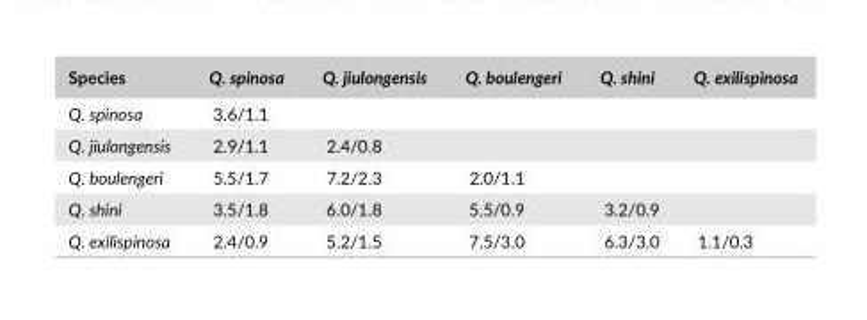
<table><thead><tr><td>Species</td><td>Q. spinosa</td><td>Q. jiulongensis</td><td>Q. boulengeri</td><td>Q. shini</td><td>Q. exilispinosa</td></tr></thead><tbody><tr><td>Q. spinosa</td><td>3.6/1.1</td><td></td><td></td><td></td><td></td></tr><tr><td>Q. jiulongensis</td><td>2.9/1.1</td><td>2.4/0.8</td><td></td><td></td><td></td></tr><tr><td>Q. boulengeri</td><td>5.5/1.7</td><td>7.2/2.3</td><td>2.0/1.1</td><td></td><td></td></tr><tr><td>Q. shini</td><td>3.5/1.8</td><td>6.0/1.8</td><td>5.5/0.9</td><td>3.2/0.9</td><td></td></tr><tr><td>Q. exilispinosa</td><td>2.4/0.9</td><td>5.2/1.5</td><td>7.5/3.0</td><td>6.3/3.0</td><td>1.1/0.3</td></tr></tbody></table>